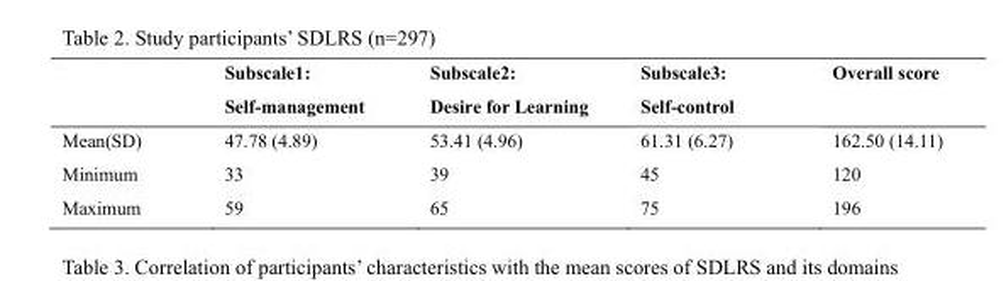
<table><thead><tr><td></td><td>Subscale1: Self-management</td><td>Subscale2: Desire for Learning</td><td>Subscale3: Self-control</td><td>Overall score</td></tr></thead><tbody><tr><td>Mean(SD)</td><td>47.78 (4.89)</td><td>53.41 (4.96)</td><td>61.31 (6.27)</td><td>162.50 (14.11)</td></tr><tr><td>Minimum</td><td>33</td><td>39</td><td>45</td><td>120</td></tr><tr><td>Maximum</td><td>59</td><td>65</td><td>75</td><td>196</td></tr></tbody></table>